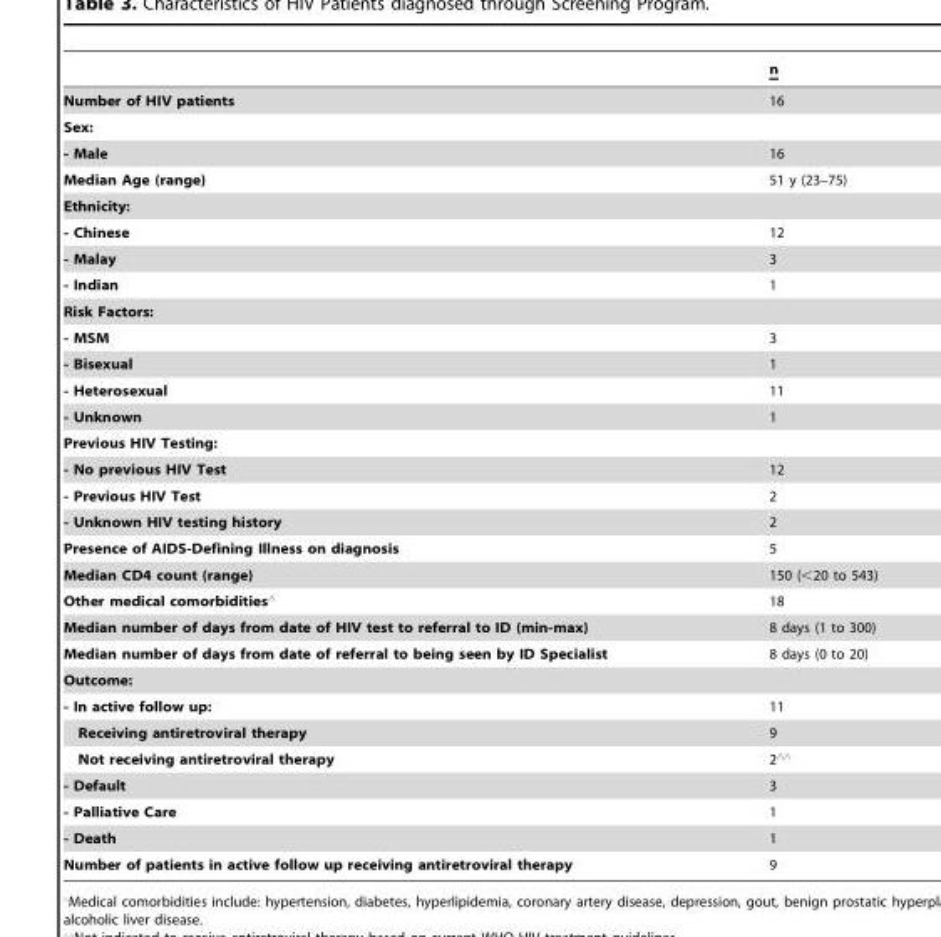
<table><thead><tr><td></td><td>n</td></tr></thead><tbody><tr><td>Number of HIV patients</td><td>16</td></tr><tr><td colspan="2">Sex:</td></tr><tr><td>- Male</td><td>16</td></tr><tr><td>Median Age (range)</td><td>51 y (23–75)</td></tr><tr><td colspan="2">Ethnicity:</td></tr><tr><td>- Chinese</td><td>12</td></tr><tr><td>- Malay</td><td>3</td></tr><tr><td>- Indian</td><td>1</td></tr><tr><td colspan="2">Risk Factors:</td></tr><tr><td>- MSM</td><td>3</td></tr><tr><td>- Bisexual</td><td>1</td></tr><tr><td>- Heterosexual</td><td>11</td></tr><tr><td>- Unknown</td><td>1</td></tr><tr><td colspan="2">Previous HIV Testing:</td></tr><tr><td>- No previous HIV Test</td><td>12</td></tr><tr><td>- Previous HIV Test</td><td>2</td></tr><tr><td>- Unknown HIV testing history</td><td>2</td></tr><tr><td>Presence of AIDS-Defining Illness on diagnosis</td><td>5</td></tr><tr><td>Median CD4 count (range)</td><td>150 (&lt;20 to 543)</td></tr><tr><td>Other medical comorbidities‘</td><td>18</td></tr><tr><td>Median number of days from date of HIV test to referral to ID (min-max)</td><td>8 days (1 to 300)</td></tr><tr><td>Median number of days from date of referral to being seen by ID Specialist</td><td>8 days (0 to 20)</td></tr><tr><td colspan="2">Outcome:</td></tr><tr><td>- In active follow up:</td><td>11</td></tr><tr><td>Receiving antiretroviral therapy</td><td>9</td></tr><tr><td>Not receiving antiretroviral therapy</td><td>2‘‘</td></tr><tr><td>- Default</td><td>3</td></tr><tr><td>- Palliative Care</td><td>1</td></tr><tr><td>- Death</td><td>1</td></tr><tr><td>Number of patients in active follow up receiving antiretroviral therapy</td><td>9</td></tr></tbody></table>